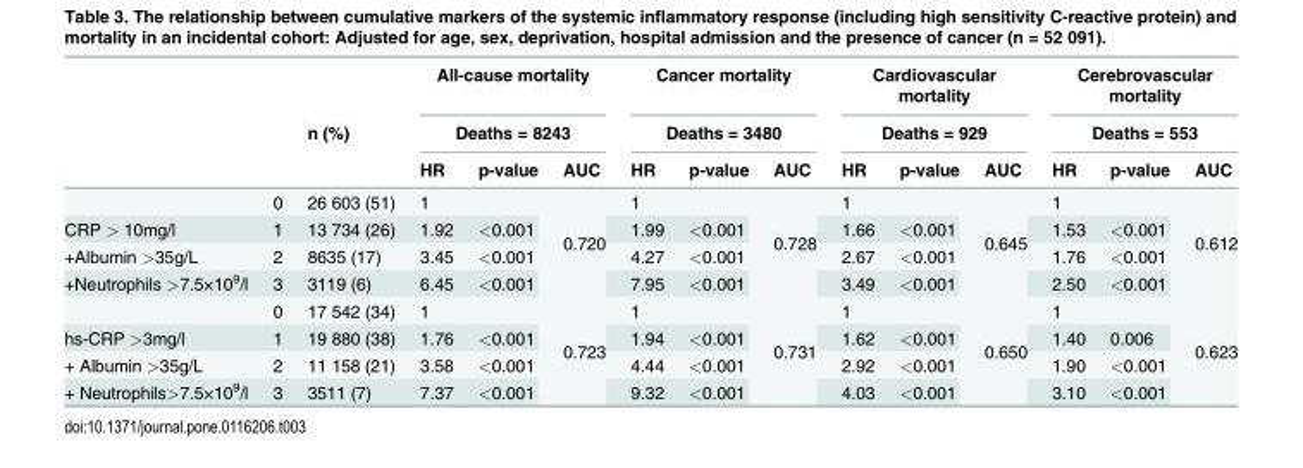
<table><thead><tr><td rowspan="3"></td><td rowspan="3"></td><td rowspan="3">n (%)</td><td rowspan="2" colspan="3">All-cause mortality Deaths = 8243</td><td rowspan="2" colspan="3">Cancer mortality Deaths = 3480</td><td rowspan="2" colspan="3">Cardiovascular mortality Deaths = 929</td><td rowspan="2" colspan="3">Cerebrovascular mortality Deaths = 553</td></tr><tr></tr><tr><td>HR</td><td>p-value</td><td>AUC</td><td>HR</td><td>p-value</td><td>AUC</td><td>HR</td><td>p-value</td><td>AUC</td><td>HR</td><td>p-value</td><td>AUC</td></tr></thead><tbody><tr><td></td><td>0</td><td>26 603 (51)</td><td>1</td><td></td><td rowspan="4">0.720</td><td>1</td><td></td><td rowspan="4">0.728</td><td>1</td><td></td><td rowspan="4">0.645</td><td>1</td><td></td><td rowspan="4">0.612</td></tr><tr><td>CRP &gt; 10mg/l</td><td>1</td><td>13 734 (26)</td><td>1.92</td><td>&lt;0.001</td><td>1.99</td><td>&lt;0.001</td><td>1.66</td><td>&lt;0.001</td><td>1.53</td><td>&lt;0.001</td></tr><tr><td>+Albumin &gt;35g/L</td><td>2</td><td>8635 (17)</td><td>3.45</td><td>&lt;0.001</td><td>4.27</td><td>&lt;0.001</td><td>2.67</td><td>&lt;0.001</td><td>1.76</td><td>&lt;0.001</td></tr><tr><td rowspan="2">+Neutrophils &gt;7.5×10<sup>9</sup>/l</td><td>3</td><td>3119 (6)</td><td>6.45</td><td>&lt;0.001</td><td>7.95</td><td>&lt;0.001</td><td>3.49</td><td>&lt;0.001</td><td>2.50</td><td>&lt;0.001</td></tr><tr><td>0</td><td>17 542 (34)</td><td>1</td><td></td><td rowspan="4">0.723</td><td>1</td><td></td><td rowspan="4">0.731</td><td>1</td><td></td><td rowspan="4">0.650</td><td>1</td><td></td><td rowspan="4">0.623</td></tr><tr><td>hs-CRP &gt;3mg/l</td><td>1</td><td>19 880 (38)</td><td>1.76</td><td>&lt;0.001</td><td>1.94</td><td>&lt;0.001</td><td>1.62</td><td>&lt;0.001</td><td>1.40</td><td>0.006</td></tr><tr><td>+ Albumin &gt;35g/L</td><td>2</td><td>11 158 (21)</td><td>3.58</td><td>&lt;0.001</td><td>4.44</td><td>&lt;0.001</td><td>2.92</td><td>&lt;0.001</td><td>1.90</td><td>&lt;0.001</td></tr><tr><td>+ Neutrophils&gt;7.5×10<sup>9</sup>/l</td><td>3</td><td>3511 (7)</td><td>7.37</td><td>&lt;0.001</td><td>9.32</td><td>&lt;0.001</td><td>4.03</td><td>&lt;0.001</td><td>3.10</td><td>&lt;0.001</td></tr></tbody></table>